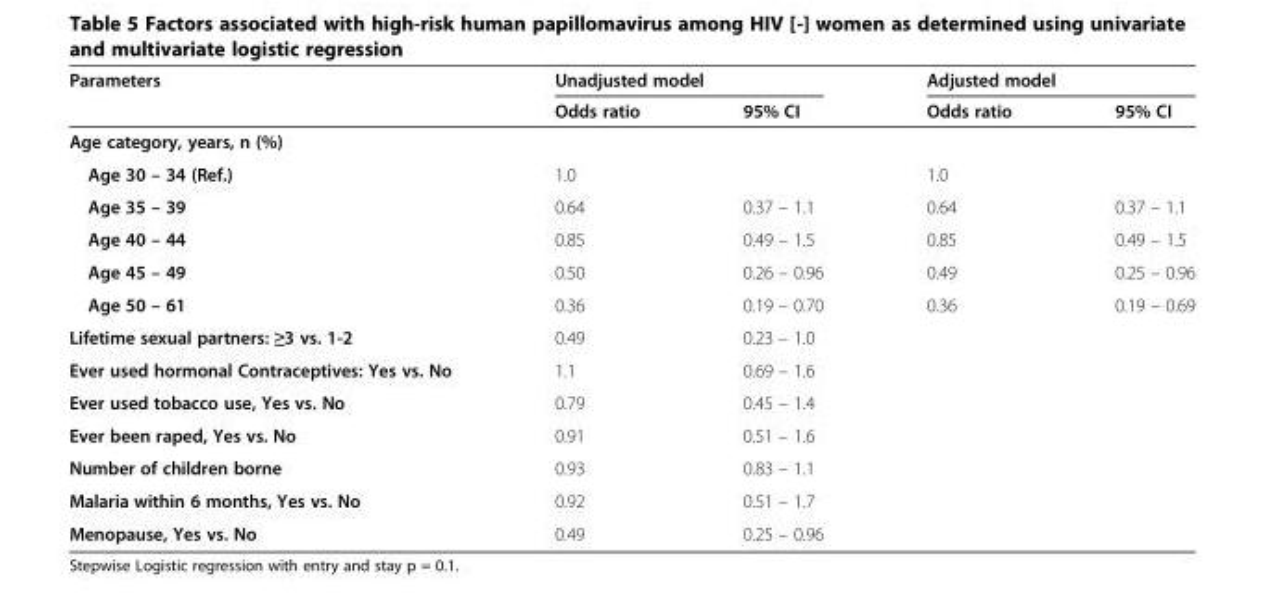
<table><thead><tr><td rowspan="2">Parameters</td><td colspan="2">Unadjusted model</td><td colspan="2">Adjusted model</td></tr><tr><td>Odds ratio</td><td>95% CI</td><td>Odds ratio</td><td>95% CI</td></tr></thead><tbody><tr><td colspan="5">Age category, years, n (%)</td></tr><tr><td>Age 30 – 34 (Ref.)</td><td>1.0</td><td></td><td>1.0</td><td></td></tr><tr><td>Age 35 – 39</td><td>0.64</td><td>0.37 – 1.1</td><td>0.64</td><td>0.37 – 1.1</td></tr><tr><td>Age 40 – 44</td><td>0.85</td><td>0.49 – 1.5</td><td>0.85</td><td>0.49 – 1.5</td></tr><tr><td>Age 45 – 49</td><td>0.50</td><td>0.26 – 0.96</td><td>0.49</td><td>0.25 – 0.96</td></tr><tr><td>Age 50 – 61</td><td>0.36</td><td>0.19 – 0.70</td><td>0.36</td><td>0.19 – 0.69</td></tr><tr><td>Lifetime sexual partners: ≥3 vs. 1-2</td><td>0.49</td><td>0.23 – 1.0</td><td></td><td></td></tr><tr><td>Ever used hormonal Contraceptives: Yes vs. No</td><td>1.1</td><td>0.69 – 1.6</td><td></td><td></td></tr><tr><td>Ever used tobacco use, Yes vs. No</td><td>0.79</td><td>0.45 – 1.4</td><td></td><td></td></tr><tr><td>Ever been raped, Yes vs. No</td><td>0.91</td><td>0.51 – 1.6</td><td></td><td></td></tr><tr><td>Number of children borne</td><td>0.93</td><td>0.83 – 1.1</td><td></td><td></td></tr><tr><td>Malaria within 6 months, Yes vs. No</td><td>0.92</td><td>0.51 – 1.7</td><td></td><td></td></tr><tr><td>Menopause, Yes vs. No</td><td>0.49</td><td>0.25 – 0.96</td><td></td><td></td></tr></tbody></table>